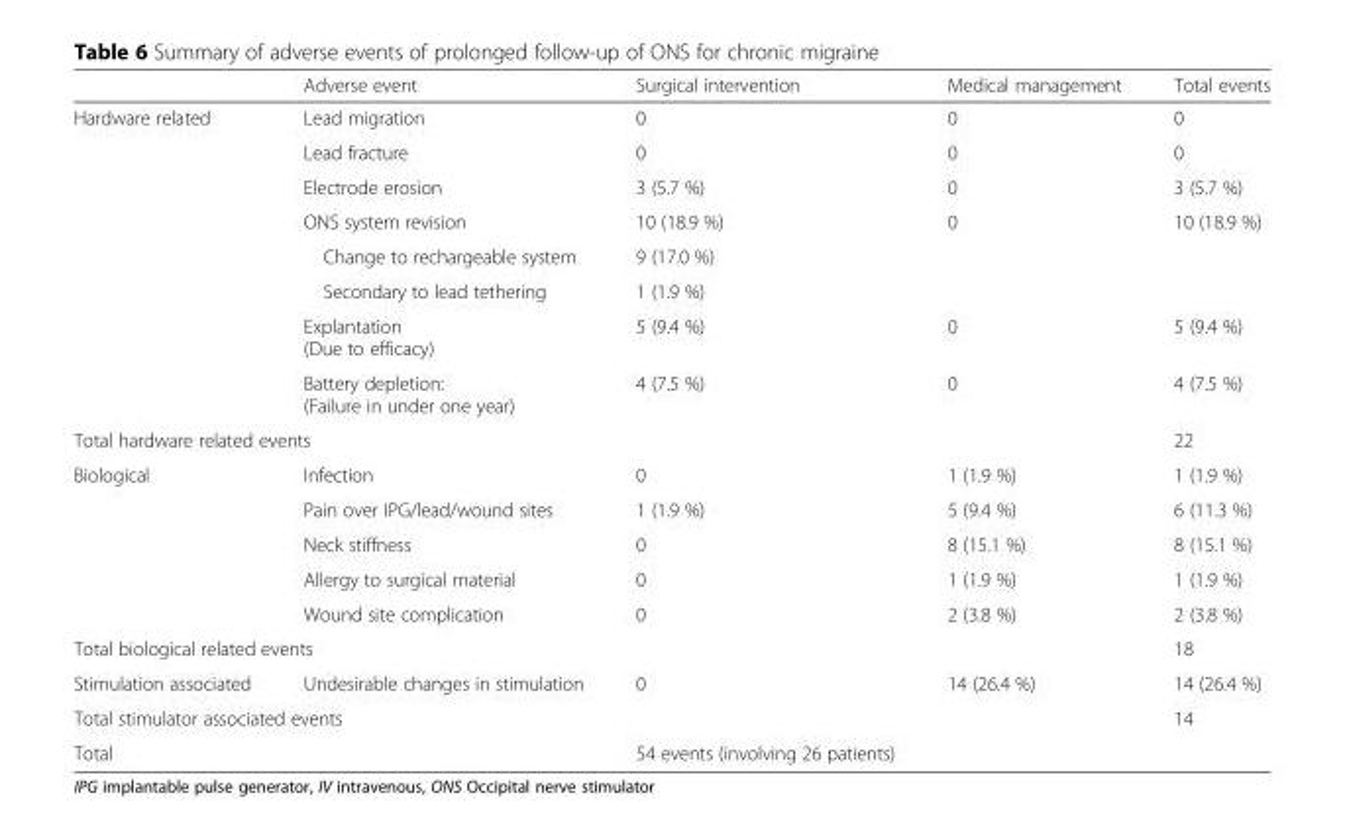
<table><thead><tr><td></td><td>Adverse event</td><td>Surgical intervention</td><td>Medical management</td><td>Total events</td></tr></thead><tbody><tr><td rowspan="8">Hardware related</td><td>Lead migration</td><td>0</td><td>0</td><td>0</td></tr><tr><td>Lead fracture</td><td>0</td><td>0</td><td>0</td></tr><tr><td>Electrode erosion</td><td>3 (5.7 %)</td><td>0</td><td>3 (5.7 %)</td></tr><tr><td>ONS system revision</td><td>10 (18.9 %)</td><td rowspan="3">0</td><td rowspan="3">10 (18.9 %)</td></tr><tr><td>Change to rechargeable system</td><td>9 (17.0 %)</td></tr><tr><td>Secondary to lead tethering</td><td>1 (1.9 %)</td></tr><tr><td>Explantation (Due to efficacy)</td><td>5 (9.4 %)</td><td>0</td><td>5 (9.4 %)</td></tr><tr><td>Battery depletion: (Failure in under one year)</td><td>4 (7.5 %)</td><td>0</td><td>4 (7.5 %)</td></tr><tr><td colspan="2">Total hardware related events</td><td></td><td></td><td>22</td></tr><tr><td rowspan="5">Biological</td><td>Infection</td><td>0</td><td>1 (1.9 %)</td><td>1 (1.9 %)</td></tr><tr><td>Pain over IPG/lead/wound sites</td><td>1 (1.9 %)</td><td>5 (9.4 %)</td><td>6 (11.3 %)</td></tr><tr><td>Neck stiffness</td><td>0</td><td>8 (15.1 %)</td><td>8 (15.1 %)</td></tr><tr><td>Allergy to surgical material</td><td>0</td><td>1 (1.9 %)</td><td>1 (1.9 %)</td></tr><tr><td>Wound site complication</td><td>0</td><td>2 (3.8 %)</td><td>2 (3.8 %)</td></tr><tr><td colspan="2">Total biological related events</td><td></td><td></td><td>18</td></tr><tr><td>Stimulation associated</td><td>Undesirable changes in stimulation</td><td>0</td><td>14 (26.4 %)</td><td>14 (26.4 %)</td></tr><tr><td colspan="2">Total stimulator associated events</td><td></td><td></td><td>14</td></tr><tr><td>Total</td><td></td><td>54 events (involving 26 patients)</td><td></td><td></td></tr></tbody></table>